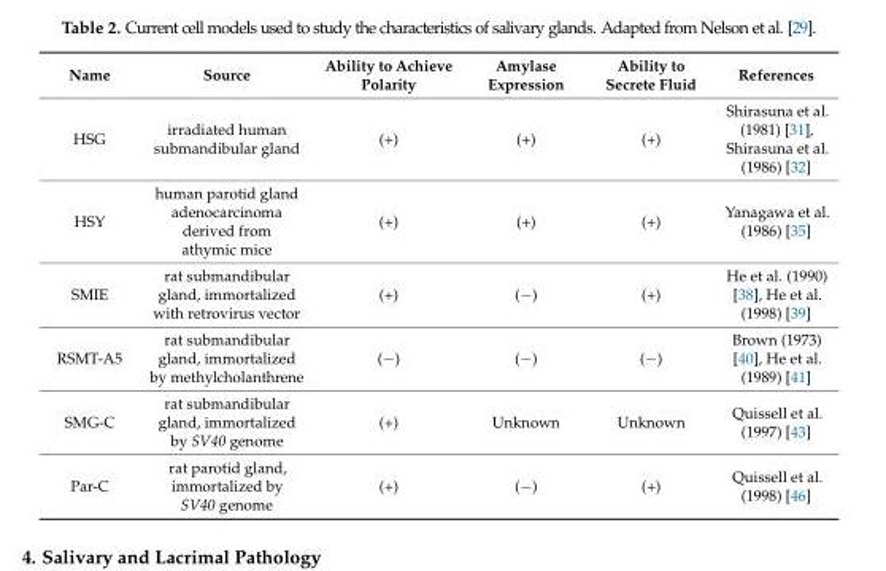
<table><thead><tr><td>Name</td><td>Source</td><td>Ability to Achieve Polarity</td><td>Amylase Expression</td><td>Ability to Secrete Fluid</td><td>References</td></tr></thead><tbody><tr><td>HSG</td><td>irradiated human submandibular gland</td><td>(+)</td><td>(+)</td><td>(+)</td><td>Shirasuna et al. (1981) [31], Shirasuna et al. (1986) [32]</td></tr><tr><td>HSY</td><td>human parotid gland adenocarcinoma derived from athymic mice</td><td>(+)</td><td>(+)</td><td>(+)</td><td>Yanagawa et al. (1986) [35]</td></tr><tr><td>SMIE</td><td>rat submandibular gland, immortalized with retrovirus vector</td><td>(+)</td><td>(−)</td><td>(+)</td><td>He et al. (1990) [38], He et al. (1998) [39]</td></tr><tr><td>RSMT-A5</td><td>rat submandibular gland, immortalized by methylcholanthrene</td><td>(−)</td><td>(−)</td><td>(−)</td><td>Brown (1973) [40], He et al. (1989) [41]</td></tr><tr><td>SMG-C</td><td>rat submandibular gland, immortalized by SV40 genome</td><td>(+)</td><td>Unknown</td><td>Unknown</td><td>Quissell et al. (1997) [43]</td></tr><tr><td>Par-C</td><td>rat parotid gland, immortalized by SV40 genome</td><td>(+)</td><td>(−)</td><td>(+)</td><td>Quissell et al. (1998) [46]</td></tr></tbody></table>